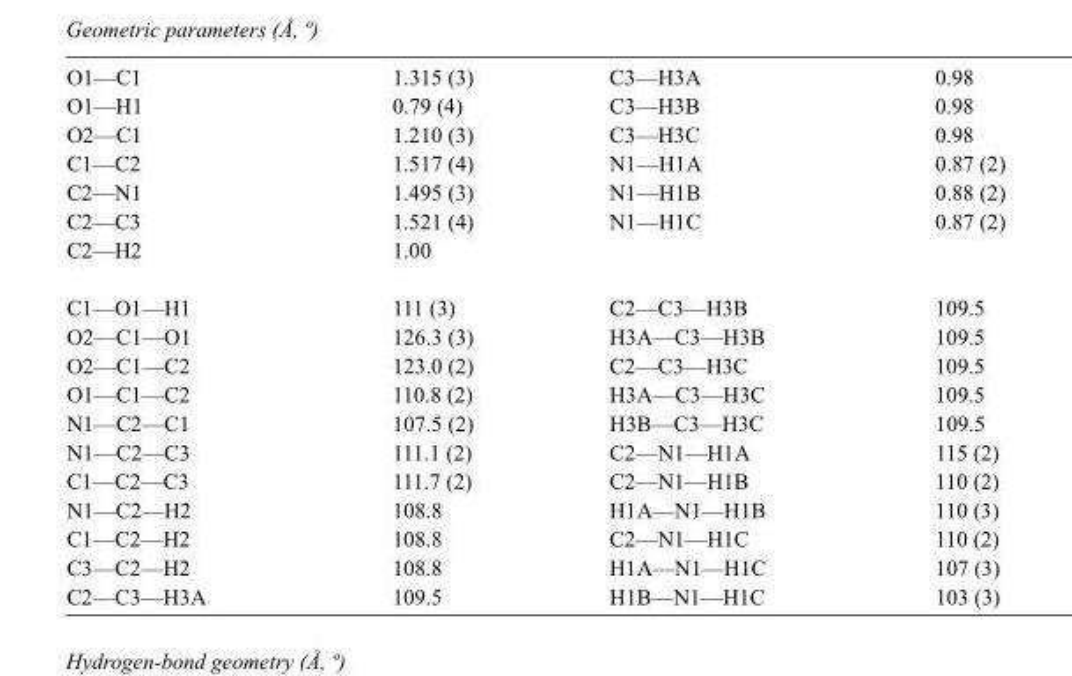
<table><tbody><tr><td>O1—C1</td><td>1.315 (3)</td><td>C3—H3A</td><td>0.98</td></tr><tr><td>O1—H1</td><td>0.79 (4)</td><td>C3—H3B</td><td>0.98</td></tr><tr><td>O2—C1</td><td>1.210 (3)</td><td>C3—H3C</td><td>0.98</td></tr><tr><td>C1—C2</td><td>1.517 (4)</td><td>N1—H1A</td><td>0.87 (2)</td></tr><tr><td>C2—N1</td><td>1.495 (3)</td><td>N1—H1B</td><td>0.88 (2)</td></tr><tr><td>C2—C3</td><td>1.521 (4)</td><td>N1—H1C</td><td>0.87 (2)</td></tr><tr><td>C2—H2</td><td>1.00</td><td></td><td></td></tr><tr><td>C1—O1—H1</td><td>111 (3)</td><td>C2—C3—H3B</td><td>109.5</td></tr><tr><td>O2—C1—O1</td><td>126.3 (3)</td><td>H3A—C3—H3B</td><td>109.5</td></tr><tr><td>O2—C1—C2</td><td>123.0 (2)</td><td>C2—C3—H3C</td><td>109.5</td></tr><tr><td>O1—C1—C2</td><td>110.8 (2)</td><td>H3A—C3—H3C</td><td>109.5</td></tr><tr><td>N1—C2—C1</td><td>107.5 (2)</td><td>H3B—C3—H3C</td><td>109.5</td></tr><tr><td>N1—C2—C3</td><td>111.1 (2)</td><td>C2—N1—H1A</td><td>115 (2)</td></tr><tr><td>C1—C2—C3</td><td>111.7 (2)</td><td>C2—N1—H1B</td><td>110 (2)</td></tr><tr><td>N1—C2—H2</td><td>108.8</td><td>H1A—N1—H1B</td><td>110 (3)</td></tr><tr><td>C1—C2—H2</td><td>108.8</td><td>C2—N1—H1C</td><td>110 (2)</td></tr><tr><td>C3—C2—H2</td><td>108.8</td><td>H1A—N1—H1C</td><td>107 (3)</td></tr><tr><td>C2—C3—H3A</td><td>109.5</td><td>H1B—N1—H1C</td><td>103 (3)</td></tr></tbody></table>